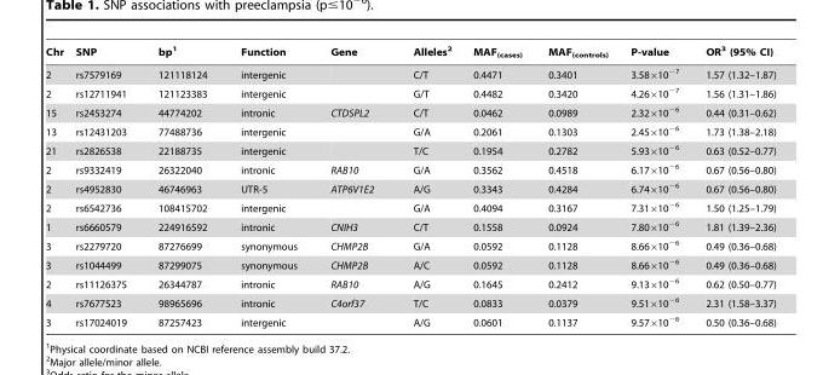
<table><thead><tr><td>Chr</td><td>SNP</td><td>bp<sup>1</sup></td><td>Function</td><td>Gene</td><td>Alleles<sup>2</sup></td><td>MAF<sub>(cases)</sub></td><td>MAF<sub>(controls)</sub></td><td>P-value</td><td>OR<sup>3</sup> (95% CI)</td></tr></thead><tbody><tr><td>2</td><td>rs7579169</td><td>121118124</td><td>intergenic</td><td></td><td>C/T</td><td>0.4471</td><td>0.3401</td><td>3.58×10<sup>−7</sup></td><td>1.57 (1.32–1.87)</td></tr><tr><td>2</td><td>rs12711941</td><td>121123383</td><td>intergenic</td><td></td><td>G/T</td><td>0.4482</td><td>0.3420</td><td>4.26×10<sup>−7</sup></td><td>1.56 (1.31–1.86)</td></tr><tr><td>15</td><td>rs2453274</td><td>44774202</td><td>intronic</td><td>CTDSPL2</td><td>C/T</td><td>0.0462</td><td>0.0989</td><td>2.32×10<sup>−6</sup></td><td>0.44 (0.31–0.62)</td></tr><tr><td>13</td><td>rs12431203</td><td>77488736</td><td>intergenic</td><td></td><td>G/A</td><td>0.2061</td><td>0.1303</td><td>2.45×10<sup>−6</sup></td><td>1.73 (1.38–2.18)</td></tr><tr><td>21</td><td>rs2826538</td><td>22188735</td><td>intergenic</td><td></td><td>T/C</td><td>0.1954</td><td>0.2782</td><td>5.93×10<sup>−6</sup></td><td>0.63 (0.52–0.77)</td></tr><tr><td>2</td><td>rs9332419</td><td>26322040</td><td>intronic</td><td>RAB10</td><td>G/A</td><td>0.3562</td><td>0.4518</td><td>6.17×10<sup>−6</sup></td><td>0.67 (0.56–0.80)</td></tr><tr><td>2</td><td>rs4952830</td><td>46746963</td><td>UTR-5</td><td>ATP6V1E2</td><td>A/G</td><td>0.3343</td><td>0.4284</td><td>6.74×10<sup>−6</sup></td><td>0.67 (0.56–0.80)</td></tr><tr><td>2</td><td>rs6542736</td><td>108415702</td><td>intergenic</td><td></td><td>G/A</td><td>0.4094</td><td>0.3167</td><td>7.31×10<sup>−6</sup></td><td>1.50 (1.25–1.79)</td></tr><tr><td>1</td><td>rs6660579</td><td>224916592</td><td>intronic</td><td>CNIH3</td><td>C/T</td><td>0.1558</td><td>0.0924</td><td>7.80×10<sup>−6</sup></td><td>1.81 (1.39–2.36)</td></tr><tr><td>3</td><td>rs2279720</td><td>87276699</td><td>synonymous</td><td>CHMP2B</td><td>G/A</td><td>0.0592</td><td>0.1128</td><td>8.66×10<sup>−6</sup></td><td>0.49 (0.36–0.68)</td></tr><tr><td>3</td><td>rs1044499</td><td>87299075</td><td>synonymous</td><td>CHMP2B</td><td>A/C</td><td>0.0592</td><td>0.1128</td><td>8.66×10<sup>−6</sup></td><td>0.49 (0.36–0.68)</td></tr><tr><td>2</td><td>rs11126375</td><td>26344787</td><td>intronic</td><td>RAB10</td><td>A/G</td><td>0.1645</td><td>0.2412</td><td>9.13×10<sup>−6</sup></td><td>0.62 (0.50–0.77)</td></tr><tr><td>4</td><td>rs7677523</td><td>98965696</td><td>intronic</td><td>C4orf37</td><td>T/C</td><td>0.0833</td><td>0.0379</td><td>9.51×10<sup>−6</sup></td><td>2.31 (1.58–3.37)</td></tr><tr><td>3</td><td>rs17024019</td><td>87257423</td><td>intergenic</td><td></td><td>A/G</td><td>0.0601</td><td>0.1137</td><td>9.57×10<sup>−6</sup></td><td>0.50 (0.36–0.68)</td></tr></tbody></table>